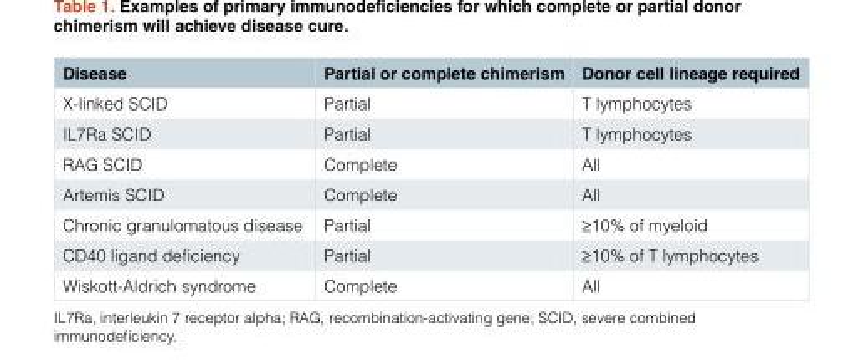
<table><thead><tr><td>Disease</td><td>Partial or complete chimerism</td><td>Donor cell lineage required</td></tr></thead><tbody><tr><td>X-linked SCID</td><td>Partial</td><td>T lymphocytes</td></tr><tr><td>IL7Ra SCID</td><td>Partial</td><td>T lymphocytes</td></tr><tr><td>RAG SCID</td><td>Complete</td><td>All</td></tr><tr><td>Artemis SCID</td><td>Complete</td><td>All</td></tr><tr><td>Chronic granulomatous disease</td><td>Partial</td><td>≥10% of myeloid</td></tr><tr><td>CD40 ligand deficiency</td><td>Partial</td><td>≥10% of T lymphocytes</td></tr><tr><td>Wiskott-Aldrich syndrome</td><td>Complete</td><td>All</td></tr></tbody></table>